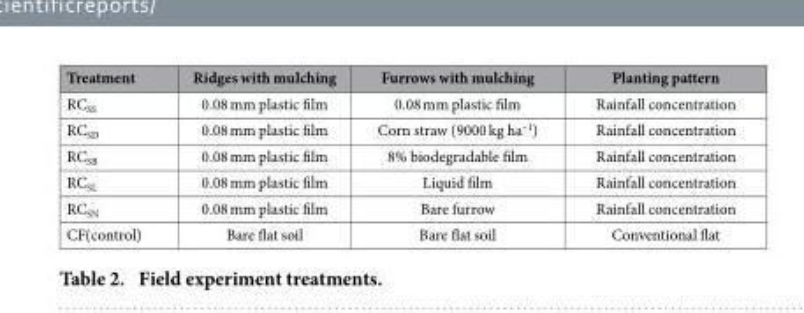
<table><thead><tr><td>Treatment</td><td>Ridges with mulching</td><td>Furrows with mulching</td><td>Planting pattern</td></tr></thead><tbody><tr><td>RC<sub>SS</sub></td><td>0.08 mm plastic film</td><td>0.08 mm plastic film</td><td>Rainfall concentration</td></tr><tr><td>RC<sub>SD</sub></td><td>0.08 mm plastic film</td><td>Corn straw (9000 kg ha<sup>–1</sup>)</td><td>Rainfall concentration</td></tr><tr><td>RC<sub>SB</sub></td><td>0.08 mm plastic film</td><td>8% biodegradable film</td><td>Rainfall concentration</td></tr><tr><td>RC<sub>SL</sub></td><td>0.08 mm plastic film</td><td>Liquid film</td><td>Rainfall concentration</td></tr><tr><td>RC<sub>SN</sub></td><td>0.08 mm plastic film</td><td>Bare furrow</td><td>Rainfall concentration</td></tr><tr><td>CF(control)</td><td>Bare flat soil</td><td>Bare flat soil</td><td>Conventional flat</td></tr></tbody></table>